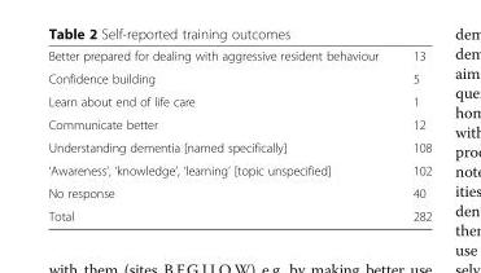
<table><tbody><tr><td>Better prepared for dealing with aggressive resident behaviour</td><td>13</td></tr><tr><td>Confidence building</td><td>5</td></tr><tr><td>Learn about end of life care</td><td>1</td></tr><tr><td>Communicate better</td><td>12</td></tr><tr><td>Understanding dementia [named specifically]</td><td>108</td></tr><tr><td>‘Awareness’, ‘knowledge’, ‘learning’ [topic unspecified]</td><td>102</td></tr><tr><td>No response</td><td>40</td></tr><tr><td>Total</td><td>282</td></tr></tbody></table>